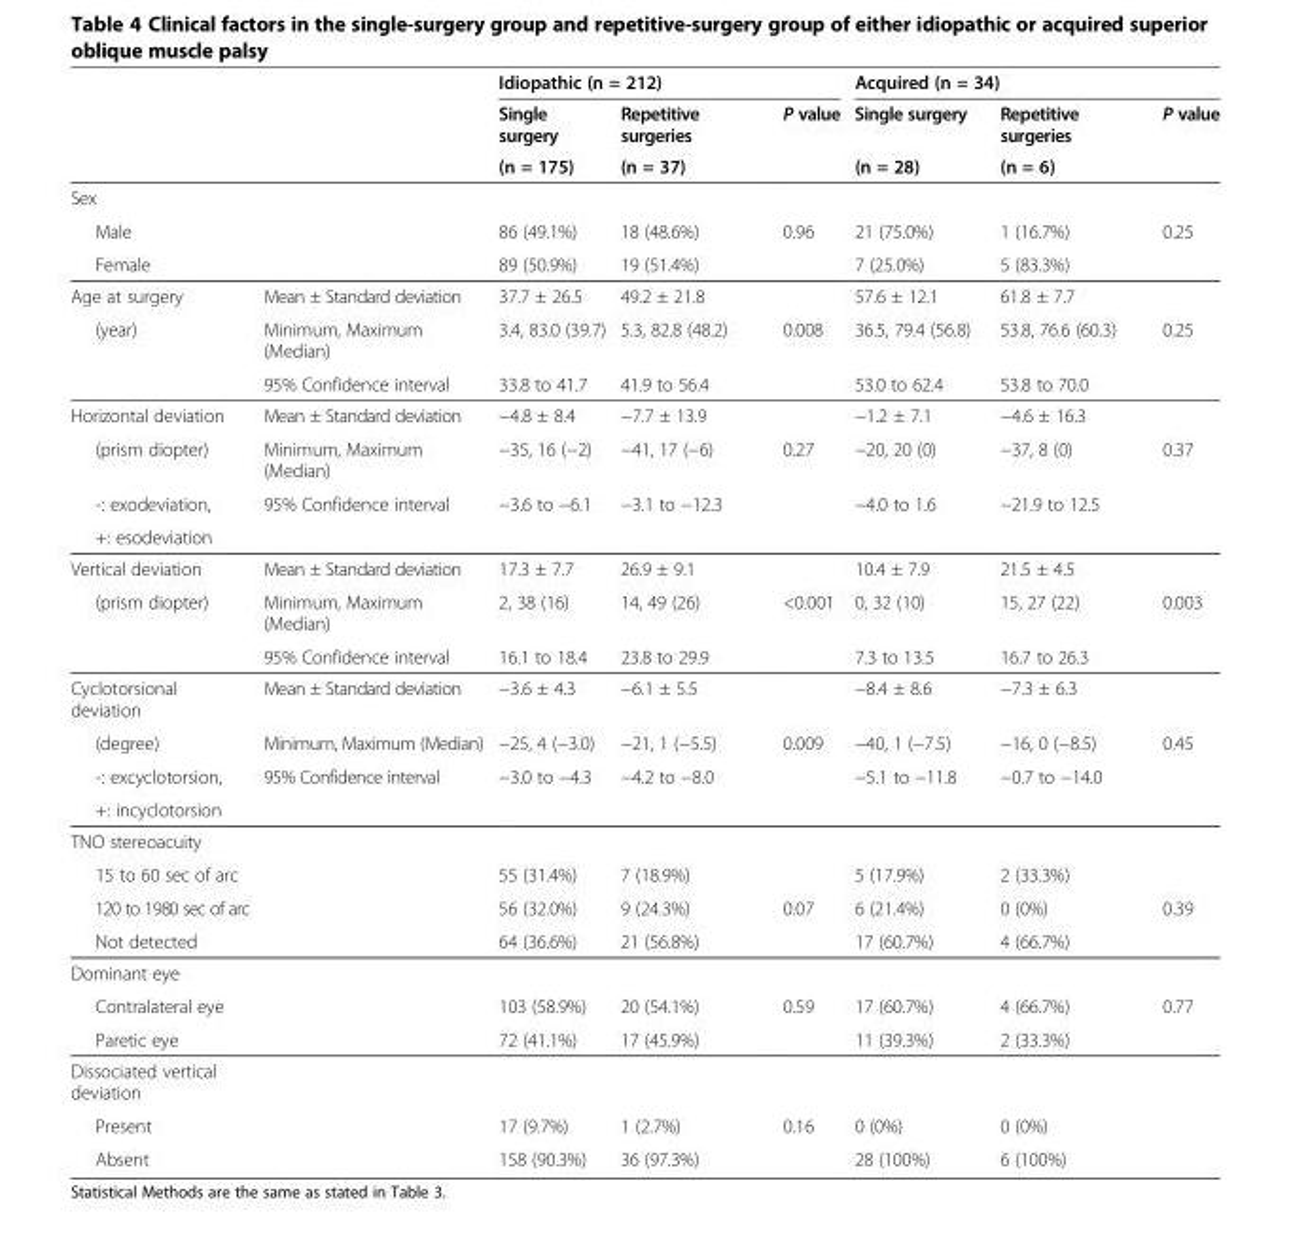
<table><thead><tr><td rowspan="3"></td><td rowspan="3"></td><td colspan="3">Idiopathic (n = 212)</td><td colspan="3">Acquired (n = 34)</td></tr><tr><td rowspan="2">Single surgery (n = 175)</td><td rowspan="2">Repetitive surgeries (n = 37)</td><td rowspan="2">P value</td><td rowspan="2">Single surgery (n = 28)</td><td rowspan="2">Repetitive surgeries (n = 6)</td><td rowspan="2">P value</td></tr><tr></tr></thead><tbody><tr><td colspan="8">Sex</td></tr><tr><td>Male</td><td></td><td>86 (49.1%)</td><td>18 (48.6%)</td><td rowspan="2">0.96</td><td>21 (75.0%)</td><td>1 (16.7%)</td><td rowspan="2">0.25</td></tr><tr><td>Female</td><td></td><td>89 (50.9%)</td><td>19 (51.4%)</td><td>7 (25.0%)</td><td>5 (83.3%)</td></tr><tr><td>Age at surgery</td><td>Mean ± Standard deviation</td><td>37.7 ± 26.5</td><td>49.2 ± 21.8</td><td></td><td>57.6 ± 12.1</td><td>61.8 ± 7.7</td><td></td></tr><tr><td rowspan="2">(year)</td><td>Minimum, Maximum (Median)</td><td>3.4, 83.0 (39.7)</td><td>5.3, 82.8 (48.2)</td><td>0.008</td><td>36.5, 79.4 (56.8)</td><td>53.8, 76.6 (60.3)</td><td>0.25</td></tr><tr><td>95% Confidence interval</td><td>33.8 to 41.7</td><td>41.9 to 56.4</td><td></td><td>53.0 to 62.4</td><td>53.8 to 70.0</td><td></td></tr><tr><td>Horizontal deviation</td><td>Mean ± Standard deviation</td><td>−4.8 ± 8.4</td><td>−7.7 ± 13.9</td><td></td><td>−1.2 ± 7.1</td><td>−4.6 ± 16.3</td><td></td></tr><tr><td>(prism diopter)</td><td>Minimum, Maximum (Median)</td><td>−35, 16 (−2)</td><td>−41, 17 (−6)</td><td>0.27</td><td>−20, 20 (0)</td><td>−37, 8 (0)</td><td>0.37</td></tr><tr><td>-: exodeviation,</td><td rowspan="2">95% Confidence interval</td><td rowspan="2">−3.6 to −6.1</td><td rowspan="2">−3.1 to −12.3</td><td rowspan="2"></td><td rowspan="2">−4.0 to 1.6</td><td rowspan="2">−21.9 to 12.5</td><td rowspan="2"></td></tr><tr><td>+: esodeviation</td></tr><tr><td>Vertical deviation</td><td>Mean ± Standard deviation</td><td>17.3 ± 7.7</td><td>26.9 ± 9.1</td><td></td><td>10.4 ± 7.9</td><td>21.5 ± 4.5</td><td></td></tr><tr><td rowspan="2">(prism diopter)</td><td>Minimum, Maximum (Median)</td><td>2, 38 (16)</td><td>14, 49 (26)</td><td>&lt;0.001</td><td>0, 32 (10)</td><td>15, 27 (22)</td><td>0.003</td></tr><tr><td>95% Confidence interval</td><td>16.1 to 18.4</td><td>23.8 to 29.9</td><td></td><td>7.3 to 13.5</td><td>16.7 to 26.3</td><td></td></tr><tr><td>Cyclotorsional deviation</td><td>Mean ± Standard deviation</td><td>−3.6 ± 4.3</td><td>−6.1 ± 5.5</td><td></td><td>−8.4 ± 8.6</td><td>−7.3 ± 6.3</td><td></td></tr><tr><td>(degree)</td><td>Minimum, Maximum (Median)</td><td>−25, 4 (−3.0)</td><td>−21, 1 (−5.5)</td><td>0.009</td><td>−40, 1 (−7.5)</td><td>−16, 0 (−8.5)</td><td>0.45</td></tr><tr><td>-: excyclotorsion,</td><td rowspan="2">95% Confidence interval</td><td rowspan="2">−3.0 to −4.3</td><td rowspan="2">−4.2 to −8.0</td><td rowspan="2"></td><td rowspan="2">−5.1 to −11.8</td><td rowspan="2">−0.7 to −14.0</td><td rowspan="2"></td></tr><tr><td>+: incyclotorsion</td></tr><tr><td colspan="8">TNO stereoacuity</td></tr><tr><td>15 to 60 sec of arc</td><td></td><td>55 (31.4%)</td><td>7 (18.9%)</td><td></td><td>5 (17.9%)</td><td>2 (33.3%)</td><td></td></tr><tr><td>120 to 1980 sec of arc</td><td></td><td>56 (32.0%)</td><td>9 (24.3%)</td><td>0.07</td><td>6 (21.4%)</td><td>0 (0%)</td><td>0.39</td></tr><tr><td>Not detected</td><td></td><td>64 (36.6%)</td><td>21 (56.8%)</td><td></td><td>17 (60.7%)</td><td>4 (66.7%)</td><td></td></tr><tr><td colspan="8">Dominant eye</td></tr><tr><td>Contralateral eye</td><td></td><td>103 (58.9%)</td><td>20 (54.1%)</td><td rowspan="2">0.59</td><td>17 (60.7%)</td><td>4 (66.7%)</td><td rowspan="2">0.77</td></tr><tr><td>Paretic eye</td><td></td><td>72 (41.1%)</td><td>17 (45.9%)</td><td>11 (39.3%)</td><td>2 (33.3%)</td></tr><tr><td colspan="8">Dissociated vertical deviation</td></tr><tr><td>Present</td><td></td><td>17 (9.7%)</td><td>1 (2.7%)</td><td rowspan="2">0.16</td><td>0 (0%)</td><td>0 (0%)</td><td rowspan="2"></td></tr><tr><td>Absent</td><td></td><td>158 (90.3%)</td><td>36 (97.3%)</td><td>28 (100%)</td><td>6 (100%)</td></tr></tbody></table>